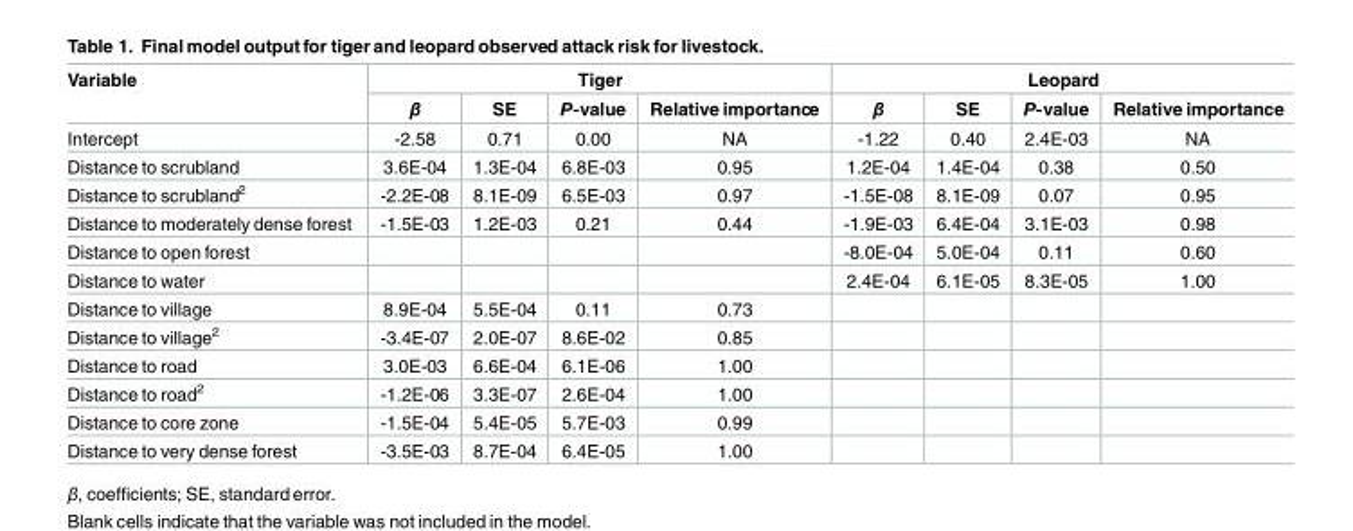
<table><thead><tr><td rowspan="2">Variable</td><td colspan="4">Tiger</td><td colspan="4">Leopard</td></tr><tr><td>β</td><td>SE</td><td>P-value</td><td>Relative importance</td><td>β</td><td>SE</td><td>P-value</td><td>Relative importance</td></tr></thead><tbody><tr><td>Intercept</td><td>-2.58</td><td>0.71</td><td>0.00</td><td>NA</td><td>-1.22</td><td>0.40</td><td>2.4E-03</td><td>NA</td></tr><tr><td>Distance to scrubland</td><td>3.6E-04</td><td>1.3E-04</td><td>6.8E-03</td><td>0.95</td><td>1.2E-04</td><td>1.4E-04</td><td>0.38</td><td>0.50</td></tr><tr><td>Distance to scrubland<sup>2</sup></td><td>-2.2E-08</td><td>8.1E-09</td><td>6.5E-03</td><td>0.97</td><td>-1.5E-08</td><td>8.1E-09</td><td>0.07</td><td>0.95</td></tr><tr><td>Distance to moderately dense forest</td><td>-1.5E-03</td><td>1.2E-03</td><td>0.21</td><td>0.44</td><td>-1.9E-03</td><td>6.4E-04</td><td>3.1E-03</td><td>0.98</td></tr><tr><td>Distance to open forest</td><td></td><td></td><td></td><td></td><td>-8.0E-04</td><td>5.0E-04</td><td>0.11</td><td>0.60</td></tr><tr><td>Distance to water</td><td></td><td></td><td></td><td></td><td>2.4E-04</td><td>6.1E-05</td><td>8.3E-05</td><td>1.00</td></tr><tr><td>Distance to village</td><td>8.9E-04</td><td>5.5E-04</td><td>0.11</td><td>0.73</td><td></td><td></td><td></td><td></td></tr><tr><td>Distance to village<sup>2</sup></td><td>-3.4E-07</td><td>2.0E-07</td><td>8.6E-02</td><td>0.85</td><td></td><td></td><td></td><td></td></tr><tr><td>Distance to road</td><td>3.0E-03</td><td>6.6E-04</td><td>6.1E-06</td><td>1.00</td><td></td><td></td><td></td><td></td></tr><tr><td>Distance to road<sup>2</sup></td><td>-1.2E-06</td><td>3.3E-07</td><td>2.6E-04</td><td>1.00</td><td></td><td></td><td></td><td></td></tr><tr><td>Distance to core zone</td><td>-1.5E-04</td><td>5.4E-05</td><td>5.7E-03</td><td>0.99</td><td></td><td></td><td></td><td></td></tr><tr><td>Distance to very dense forest</td><td>-3.5E-03</td><td>8.7E-04</td><td>6.4E-05</td><td>1.00</td><td></td><td></td><td></td><td></td></tr></tbody></table>